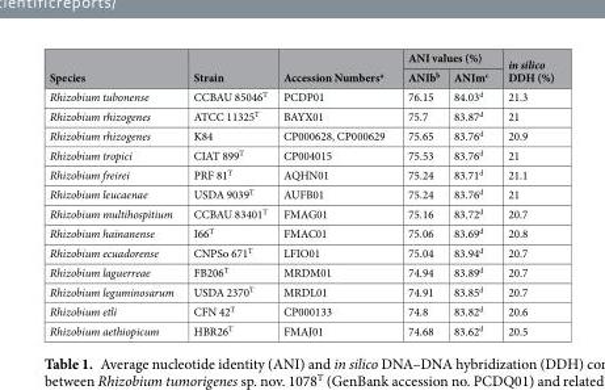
<table><thead><tr><td rowspan="2">Species</td><td rowspan="2">Strain</td><td rowspan="2">Accession Numbers<sup>a</sup></td><td colspan="2">ANI values (%)</td><td rowspan="2">in silico DDH (%)</td></tr><tr><td>ANIb<sup>b</sup></td><td>ANIm<sup>c</sup></td></tr></thead><tbody><tr><td>Rhizobium tubonense</td><td>CCBAU 85046<sup>T</sup></td><td>PCDP01</td><td>76.15</td><td>84.03<sup>d</sup></td><td>21.3</td></tr><tr><td>Rhizobium rhizogenes</td><td>ATCC 11325<sup>T</sup></td><td>BAYX01</td><td>75.7</td><td>83.87<sup>d</sup></td><td>21</td></tr><tr><td>Rhizobium rhizogenes</td><td>K84</td><td>CP000628, CP000629</td><td>75.65</td><td>83.76<sup>d</sup></td><td>20.9</td></tr><tr><td>Rhizobium tropici</td><td>CIAT 899<sup>T</sup></td><td>CP004015</td><td>75.53</td><td>83.76<sup>d</sup></td><td>21</td></tr><tr><td>Rhizobium freirei</td><td>PRF 81<sup>T</sup></td><td>AQHN01</td><td>75.24</td><td>83.71<sup>d</sup></td><td>21.1</td></tr><tr><td>Rhizobium leucaenae</td><td>USDA 9039<sup>T</sup></td><td>AUFB01</td><td>75.24</td><td>83.76<sup>d</sup></td><td>21</td></tr><tr><td>Rhizobium multihospitium</td><td>CCBAU 83401<sup>T</sup></td><td>FMAG01</td><td>75.16</td><td>83.72<sup>d</sup></td><td>20.7</td></tr><tr><td>Rhizobium hainanense</td><td>I66<sup>T</sup></td><td>FMAC01</td><td>75.06</td><td>83.69<sup>d</sup></td><td>20.8</td></tr><tr><td>Rhizobium ecuadorense</td><td>CNPSo 671<sup>T</sup></td><td>LFIO01</td><td>75.04</td><td>83.94<sup>d</sup></td><td>20.7</td></tr><tr><td>Rhizobium laguerreae</td><td>FB206<sup>T</sup></td><td>MRDM01</td><td>74.94</td><td>83.89<sup>d</sup></td><td>20.7</td></tr><tr><td>Rhizobium leguminosarum</td><td>USDA 2370<sup>T</sup></td><td>MRDL01</td><td>74.91</td><td>83.85<sup>d</sup></td><td>20.7</td></tr><tr><td>Rhizobium etli</td><td>CFN 42<sup>T</sup></td><td>CP000133</td><td>74.8</td><td>83.82<sup>d</sup></td><td>20.6</td></tr><tr><td>Rhizobium aethiopicum</td><td>HBR26<sup>T</sup></td><td>FMAJ01</td><td>74.68</td><td>83.62<sup>d</sup></td><td>20.5</td></tr></tbody></table>